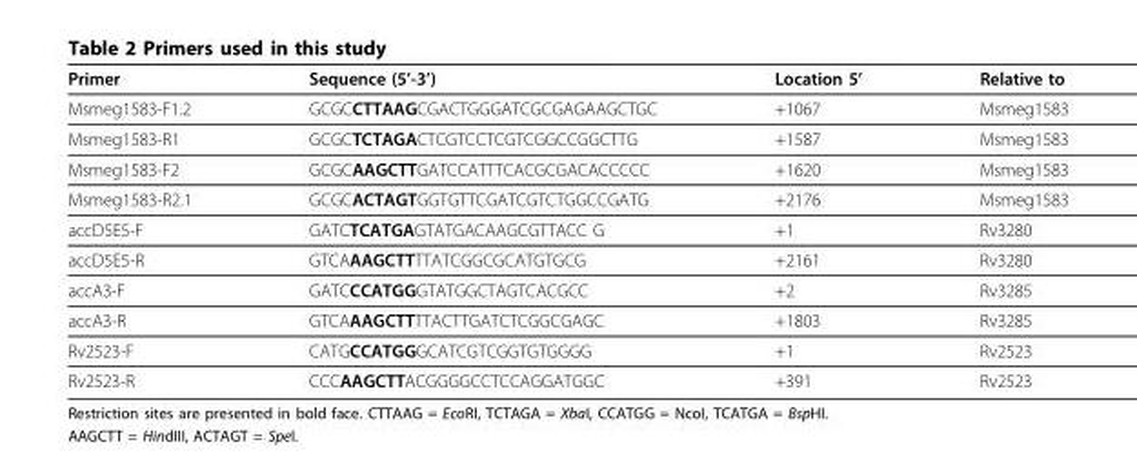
<table><thead><tr><td>Primer</td><td>Sequence (5’-3’)</td><td>Location 5’</td><td>Relative to</td></tr></thead><tbody><tr><td>Msmeg1583-F1.2</td><td>GCGCCTTAAGCGACTGGGATCGCGAGAAGCTGC</td><td>+1067</td><td>Msmeg1583</td></tr><tr><td>Msmeg1583-R1</td><td>GCGCTCTAGACTCGTCCTCGTCGGCCGGCTTG</td><td>+1587</td><td>Msmeg1583</td></tr><tr><td>Msmeg1583-F2</td><td>GCGCAAGCTTGATCCATTTCACGCGACACCCCC</td><td>+1620</td><td>Msmeg1583</td></tr><tr><td>Msmeg1583-R2.1</td><td>GCGCACTAGTGGTGTTCGATCGTCTGGCCGATG</td><td>+2176</td><td>Msmeg1583</td></tr><tr><td>accD5E5-F</td><td>GATCTCATGAGTATGACAAGCGTTACC G</td><td>+1</td><td>Rv3280</td></tr><tr><td>accD5E5-R</td><td>GTCAAAGCTTTTATCGGCGCATGTGCG</td><td>+2161</td><td>Rv3280</td></tr><tr><td>accA3-F</td><td>GATCCCATGGGTATGGCTAGTCACGCC</td><td>+2</td><td>Rv3285</td></tr><tr><td>accA3-R</td><td>GTCAAAGCTTTTACTTGATCTCGGCGAGC</td><td>+1803</td><td>Rv3285</td></tr><tr><td>Rv2523-F</td><td>CATGCCATGGGCATCGTCGGTGTGGGG</td><td>+1</td><td>Rv2523</td></tr><tr><td>Rv2523-R</td><td>CCCAAGCTTACGGGGCCTCCAGGATGGC</td><td>+391</td><td>Rv2523</td></tr></tbody></table>